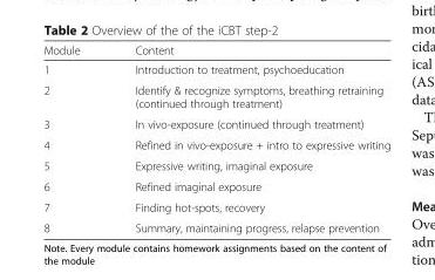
<table><thead><tr><td>Module</td><td>Content</td></tr></thead><tbody><tr><td>1</td><td>Introduction to treatment, psychoeducation</td></tr><tr><td>2</td><td>Identify &amp; recognize symptoms, breathing retraining (continued through treatment)</td></tr><tr><td>3</td><td>In vivo-exposure (continued through treatment)</td></tr><tr><td>4</td><td>Refined in vivo-exposure + intro to expressive writing</td></tr><tr><td>5</td><td>Expressive writing, imaginal exposure</td></tr><tr><td>6</td><td>Refined imaginal exposure</td></tr><tr><td>7</td><td>Finding hot-spots, recovery</td></tr><tr><td>8</td><td>Summary, maintaining progress, relapse prevention</td></tr></tbody></table>